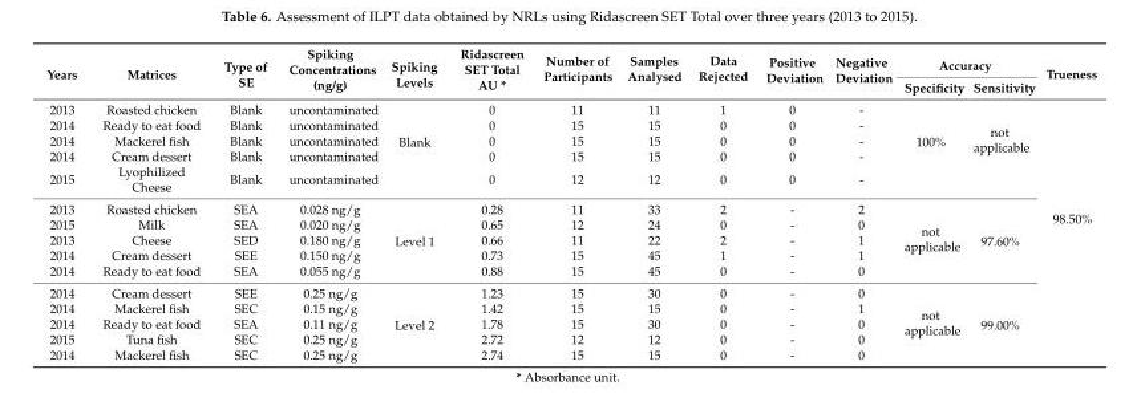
<table><thead><tr><td rowspan="2">Years</td><td rowspan="2">Matrices</td><td rowspan="2">Type of SE</td><td rowspan="2">Spiking Concentrations (ng/g)</td><td rowspan="2">Spiking Levels</td><td rowspan="2">Ridascreen SET Total AU *</td><td rowspan="2">Number of Participants</td><td rowspan="2">Samples Analysed</td><td rowspan="2">Data Rejected</td><td rowspan="2">Positive Deviation</td><td rowspan="2">Negative Deviation</td><td colspan="2">Accuracy</td><td rowspan="2">Trueness</td></tr><tr><td>Specificity</td><td>Sensitivity</td></tr></thead><tbody><tr><td>2013</td><td>Roasted chicken</td><td>Blank</td><td>uncontaminated</td><td rowspan="5">Blank</td><td>0</td><td>11</td><td>11</td><td>1</td><td>0</td><td>-</td><td rowspan="5">100%</td><td rowspan="5">not applicable</td><td rowspan="15">98.50%</td></tr><tr><td>2014</td><td>Ready to eat food</td><td>Blank</td><td>uncontaminated</td><td>0</td><td>15</td><td>15</td><td>0</td><td>0</td><td>-</td></tr><tr><td>2014</td><td>Mackerel fish</td><td>Blank</td><td>uncontaminated</td><td>0</td><td>15</td><td>15</td><td>0</td><td>0</td><td>-</td></tr><tr><td>2014</td><td>Cream dessert</td><td>Blank</td><td>uncontaminated</td><td>0</td><td>15</td><td>15</td><td>0</td><td>0</td><td>-</td></tr><tr><td>2015</td><td>Lyophilized Cheese</td><td>Blank</td><td>uncontaminated</td><td>0</td><td>12</td><td>12</td><td>0</td><td>0</td><td>-</td></tr><tr><td>2013</td><td>Roasted chicken</td><td>SEA</td><td>0.028 ng/g</td><td rowspan="5">Level 1</td><td>0.28</td><td>11</td><td>33</td><td>2</td><td>-</td><td>2</td><td rowspan="5">not applicable</td><td rowspan="5">97.60%</td></tr><tr><td>2015</td><td>Milk</td><td>SEA</td><td>0.020 ng/g</td><td>0.65</td><td>12</td><td>24</td><td>0</td><td>-</td><td>0</td></tr><tr><td>2013</td><td>Cheese</td><td>SED</td><td>0.180 ng/g</td><td>0.66</td><td>11</td><td>22</td><td>2</td><td>-</td><td>1</td></tr><tr><td>2014</td><td>Cream dessert</td><td>SEE</td><td>0.150 ng/g</td><td>0.73</td><td>15</td><td>45</td><td>1</td><td>-</td><td>1</td></tr><tr><td>2014</td><td>Ready to eat food</td><td>SEA</td><td>0.055 ng/g</td><td>0.88</td><td>15</td><td>45</td><td>0</td><td>-</td><td>0</td></tr><tr><td>2014</td><td>Cream dessert</td><td>SEE</td><td>0.25 ng/g</td><td rowspan="5">Level 2</td><td>1.23</td><td>15</td><td>30</td><td>0</td><td>-</td><td>0</td><td rowspan="5">not applicable</td><td rowspan="5">99.00%</td></tr><tr><td>2014</td><td>Mackerel fish</td><td>SEC</td><td>0.15 ng/g</td><td>1.42</td><td>15</td><td>15</td><td>0</td><td>-</td><td>1</td></tr><tr><td>2014</td><td>Ready to eat food</td><td>SEA</td><td>0.11 ng/g</td><td>1.78</td><td>15</td><td>30</td><td>0</td><td>-</td><td>0</td></tr><tr><td>2015</td><td>Tuna fish</td><td>SEC</td><td>0.25 ng/g</td><td>2.72</td><td>12</td><td>12</td><td>0</td><td>-</td><td>0</td></tr><tr><td>2014</td><td>Mackerel fish</td><td>SEC</td><td>0.25 ng/g</td><td>2.74</td><td>15</td><td>15</td><td>0</td><td>-</td><td>0</td></tr></tbody></table>